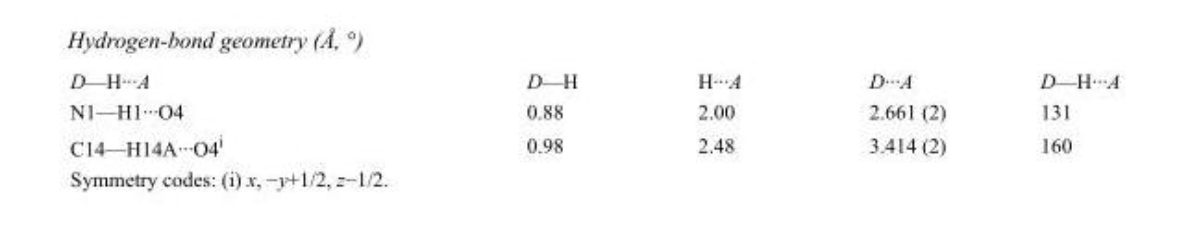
<table><tbody><tr><td>D—H···A</td><td>D—H</td><td>H···A</td><td>D···A</td><td>D—H···A</td></tr><tr><td>N1—H1···O4</td><td>0.88</td><td>2.00</td><td>2.661 (2)</td><td>131</td></tr><tr><td>C14—H14A···O4<sup>i</sup></td><td>0.98</td><td>2.48</td><td>3.414 (2)</td><td>160</td></tr></tbody></table>